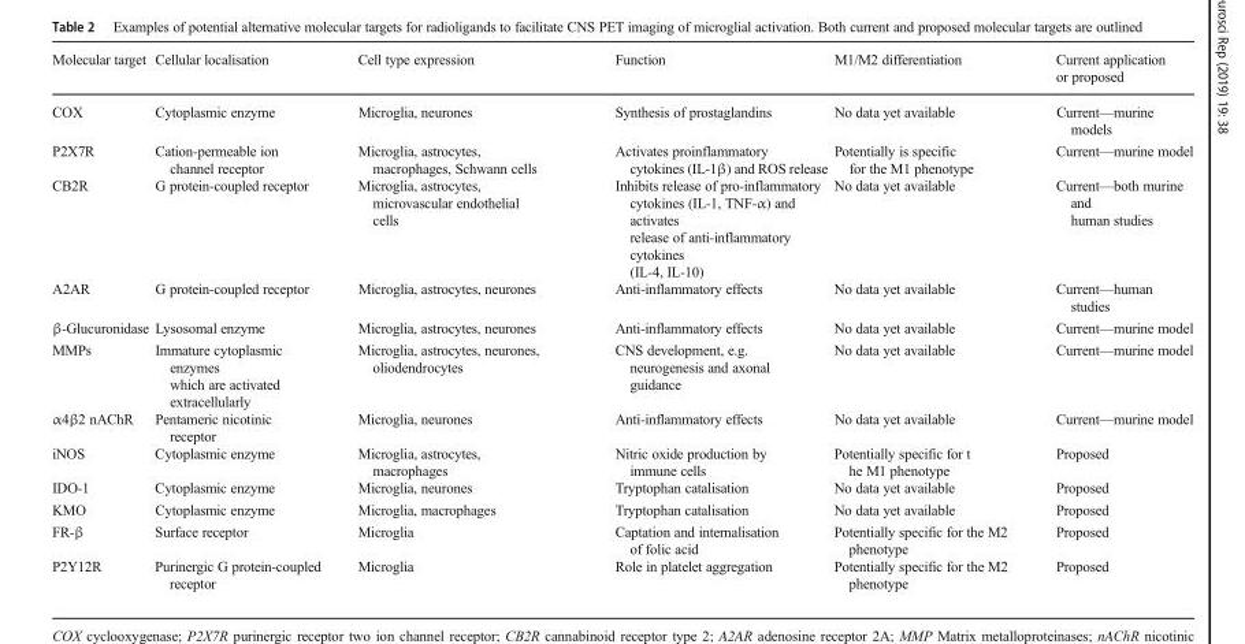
<table><thead><tr><td>Molecular target</td><td>Cellular localisation</td><td>Cell type expression</td><td>Function</td><td>M1/M2 differentiation</td><td>Current application or proposed</td></tr></thead><tbody><tr><td>COX</td><td>Cytoplasmic enzyme</td><td>Microglia, neurones</td><td>Synthesis of prostaglandins</td><td>No data yet available</td><td>Current—murine models</td></tr><tr><td>P2X7R</td><td>Cation-permeable ion channel receptor</td><td>Microglia, astrocytes, macrophages, Schwann cells</td><td>Activates proinflammatory cytokines (IL-1β) and ROS release</td><td>Potentially is specific for the M1 phenotype</td><td>Current—murine model</td></tr><tr><td>CB2R</td><td>G protein-coupled receptor</td><td>Microglia, astrocytes, microvascular endothelial cells</td><td>Inhibits release of pro-inflammatory cytokines (IL-1, TNF-α) and activates release of anti-inflammatory cytokines (IL-4, IL-10)</td><td>No data yet available</td><td>Current—both murine and human studies</td></tr><tr><td>A2AR</td><td>G protein-coupled receptor</td><td>Microglia, astrocytes, neurones</td><td>Anti-inflammatory effects</td><td>No data yet available</td><td>Current—human studies</td></tr><tr><td>β-Glucuronidase</td><td>Lysosomal enzyme</td><td>Microglia, astrocytes, neurones</td><td>Anti-inflammatory effects</td><td>No data yet available</td><td>Current—murine model</td></tr><tr><td>MMPs</td><td>Immature cytoplasmic enzymes which are activated extracellularly</td><td>Microglia, astrocytes, neurones, oliodendrocytes</td><td>CNS development, e.g. neurogenesis and axonal guidance</td><td>No data yet available</td><td>Current—murine model</td></tr><tr><td>α4β2 nAChR</td><td>Pentameric nicotinic receptor</td><td>Microglia, neurones</td><td>Anti-inflammatory effects</td><td>No data yet available</td><td>Current—murine model</td></tr><tr><td>iNOS</td><td>Cytoplasmic enzyme</td><td>Microglia, astrocytes, macrophages</td><td>Nitric oxide production by immune cells</td><td>Potentially specific for t he M1 phenotype</td><td>Proposed</td></tr><tr><td>IDO-1</td><td>Cytoplasmic enzyme</td><td>Microglia, neurones</td><td>Tryptophan catalisation</td><td>No data yet available</td><td>Proposed</td></tr><tr><td>KMO</td><td>Cytoplasmic enzyme</td><td>Microglia, macrophages</td><td>Tryptophan catalisation</td><td>No data yet available</td><td>Proposed</td></tr><tr><td>FR-β</td><td>Surface receptor</td><td>Microglia</td><td>Captation and internalisation of folic acid</td><td>Potentially specific for the M2 phenotype</td><td>Proposed</td></tr><tr><td>P2Y12R</td><td>Purinergic G protein-coupled receptor</td><td>Microglia</td><td>Role in platelet aggregation</td><td>Potentially specific for the M2 phenotype</td><td>Proposed</td></tr></tbody></table>